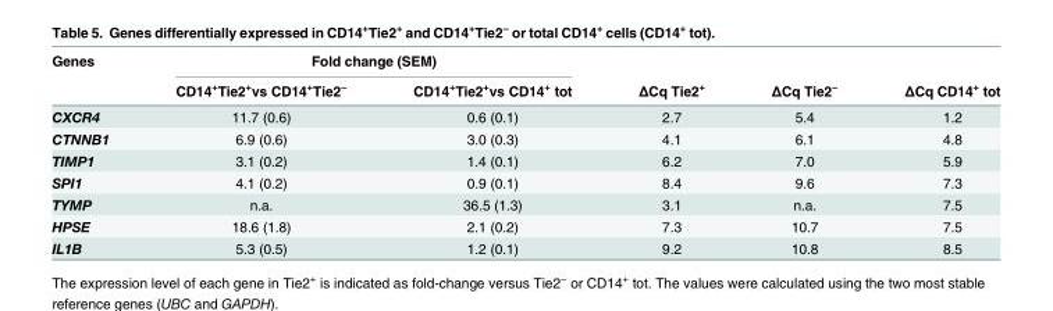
<table><thead><tr><td rowspan="2">Genes</td><td colspan="2">Fold change (SEM)</td><td rowspan="2">ΔCq Tie2<sup>+</sup></td><td rowspan="2">ΔCq Tie2<sup>−</sup></td><td rowspan="2">ΔCq CD14<sup>+</sup> tot</td></tr><tr><td>CD14<sup>+</sup>Tie2<sup>+</sup>vs CD14<sup>+</sup>Tie2<sup>−</sup></td><td>CD14<sup>+</sup>Tie2<sup>+</sup>vs CD14<sup>+</sup> tot</td></tr></thead><tbody><tr><td>CXCR4</td><td>11.7 (0.6)</td><td>0.6 (0.1)</td><td>2.7</td><td>5.4</td><td>1.2</td></tr><tr><td>CTNNB1</td><td>6.9 (0.6)</td><td>3.0 (0.3)</td><td>4.1</td><td>6.1</td><td>4.8</td></tr><tr><td>TIMP1</td><td>3.1 (0.2)</td><td>1.4 (0.1)</td><td>6.2</td><td>7.0</td><td>5.9</td></tr><tr><td>SPI1</td><td>4.1 (0.2)</td><td>0.9 (0.1)</td><td>8.4</td><td>9.6</td><td>7.3</td></tr><tr><td>TYMP</td><td>n.a.</td><td>36.5 (1.3)</td><td>3.1</td><td>n.a.</td><td>7.5</td></tr><tr><td>HPSE</td><td>18.6 (1.8)</td><td>2.1 (0.2)</td><td>7.3</td><td>10.7</td><td>7.5</td></tr><tr><td>IL1B</td><td>5.3 (0.5)</td><td>1.2 (0.1)</td><td>9.2</td><td>10.8</td><td>8.5</td></tr></tbody></table>